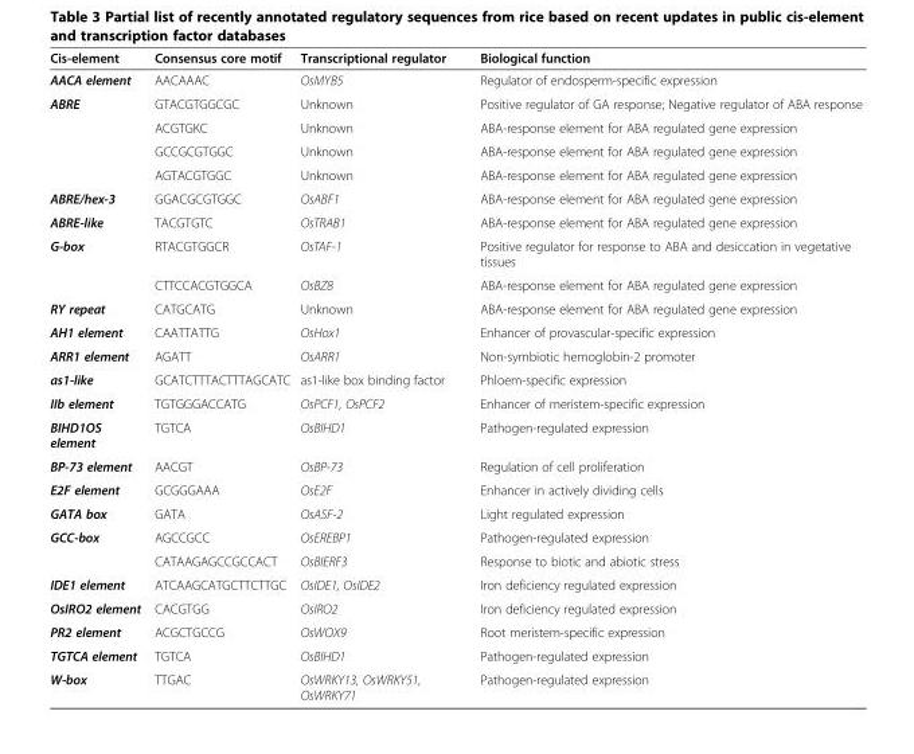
<table><thead><tr><td>Cis-element</td><td>Consensus core motif</td><td>Transcriptional regulator</td><td>Biological function</td></tr></thead><tbody><tr><td>AACA element</td><td>AACAAAC</td><td>OsMYB5</td><td>Regulator of endosperm-specific expression</td></tr><tr><td rowspan="4">ABRE</td><td>GTACGTGGCGC</td><td>Unknown</td><td>Positive regulator of GA response; Negative regulator of ABA response</td></tr><tr><td>ACGTGKC</td><td>Unknown</td><td>ABA-response element for ABA regulated gene expression</td></tr><tr><td>GCCGCGTGGC</td><td>Unknown</td><td>ABA-response element for ABA regulated gene expression</td></tr><tr><td>AGTACGTGGC</td><td>Unknown</td><td>ABA-response element for ABA regulated gene expression</td></tr><tr><td>ABRE/hex-3</td><td>GGACGCGTGGC</td><td>OsABF1</td><td>ABA-response element for ABA regulated gene expression</td></tr><tr><td>ABRE-like</td><td>TACGTGTC</td><td>OsTRAB1</td><td>ABA-response element for ABA regulated gene expression</td></tr><tr><td rowspan="2">G-box</td><td>RTACGTGGCR</td><td>OsTAF-1</td><td>Positive regulator for response to ABA and desiccation in vegetative tissues</td></tr><tr><td>CTTCCACGTGGCA</td><td>OsBZ8</td><td>ABA-response element for ABA regulated gene expression</td></tr><tr><td>RY repeat</td><td>CATGCATG</td><td>Unknown</td><td>ABA-response element for ABA regulated gene expression</td></tr><tr><td>AH1 element</td><td>CAATTATTG</td><td>OsHox1</td><td>Enhancer of provascular-specific expression</td></tr><tr><td>ARR1 element</td><td>AGATT</td><td>OsARR1</td><td>Non-symbiotic hemoglobin-2 promoter</td></tr><tr><td>as1-like</td><td>GCATCTTTACTTTAGCATC</td><td>as1-like box binding factor</td><td>Phloem-specific expression</td></tr><tr><td>IIb element</td><td>TGTGGGACCATG</td><td>OsPCF1, OsPCF2</td><td>Enhancer of meristem-specific expression</td></tr><tr><td>BIHD1OS element</td><td>TGTCA</td><td>OsBIHD1</td><td>Pathogen-regulated expression</td></tr><tr><td>BP-73 element</td><td>AACGT</td><td>OsBP-73</td><td>Regulation of cell proliferation</td></tr><tr><td>E2F element</td><td>GCGGGAAA</td><td>OsE2F</td><td>Enhancer in actively dividing cells</td></tr><tr><td>GATA box</td><td>GATA</td><td>OsASF-2</td><td>Light regulated expression</td></tr><tr><td rowspan="2">GCC-box</td><td>AGCCGCC</td><td>OsEREBP1</td><td>Pathogen-regulated expression</td></tr><tr><td>CATAAGAGCCGCCACT</td><td>OsBIERF3</td><td>Response to biotic and abiotic stress</td></tr><tr><td>IDE1 element</td><td>ATCAAGCATGCTTCTTGC</td><td>OsIDE1, OsIDE2</td><td>Iron deficiency regulated expression</td></tr><tr><td>OsIRO2 element</td><td>CACGTGG</td><td>OsIRO2</td><td>Iron deficiency regulated expression</td></tr><tr><td>PR2 element</td><td>ACGCTGCCG</td><td>OsWOX9</td><td>Root meristem-specific expression</td></tr><tr><td>TGTCA element</td><td>TGTCA</td><td>OsBIHD1</td><td>Pathogen-regulated expression</td></tr><tr><td>W-box</td><td>TTGAC</td><td>OsWRKY13, OsWRKY51, OsWRKY71</td><td>Pathogen-regulated expression</td></tr></tbody></table>